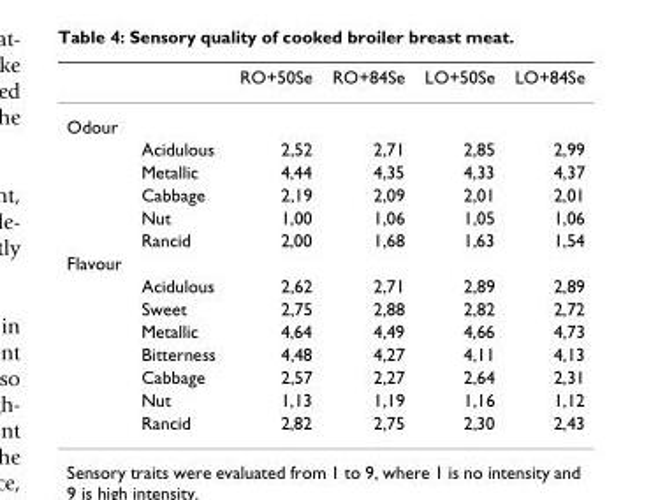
<table><thead><tr><td></td><td></td><td>RO+50Se</td><td>RO+84Se</td><td>LO+50Se</td><td>LO+84Se</td></tr></thead><tbody><tr><td colspan="6">Odour</td></tr><tr><td></td><td>Acidulous</td><td>2,52</td><td>2,71</td><td>2,85</td><td>2,99</td></tr><tr><td></td><td>Metallic</td><td>4,44</td><td>4,35</td><td>4,33</td><td>4,37</td></tr><tr><td></td><td>Cabbage</td><td>2,19</td><td>2,09</td><td>2,01</td><td>2,01</td></tr><tr><td></td><td>Nut</td><td>1,00</td><td>1,06</td><td>1,05</td><td>1,06</td></tr><tr><td></td><td>Rancid</td><td>2,00</td><td>1,68</td><td>1,63</td><td>1,54</td></tr><tr><td colspan="6">Flavour</td></tr><tr><td></td><td>Acidulous</td><td>2,62</td><td>2,71</td><td>2,89</td><td>2,89</td></tr><tr><td></td><td>Sweet</td><td>2,75</td><td>2,88</td><td>2,82</td><td>2,72</td></tr><tr><td></td><td>Metallic</td><td>4,64</td><td>4,49</td><td>4,66</td><td>4,73</td></tr><tr><td></td><td>Bitterness</td><td>4,48</td><td>4,27</td><td>4,11</td><td>4,13</td></tr><tr><td></td><td>Cabbage</td><td>2,57</td><td>2,27</td><td>2,64</td><td>2,31</td></tr><tr><td></td><td>Nut</td><td>1,13</td><td>1,19</td><td>1,16</td><td>1,12</td></tr><tr><td></td><td>Rancid</td><td>2,82</td><td>2,75</td><td>2,30</td><td>2,43</td></tr></tbody></table>